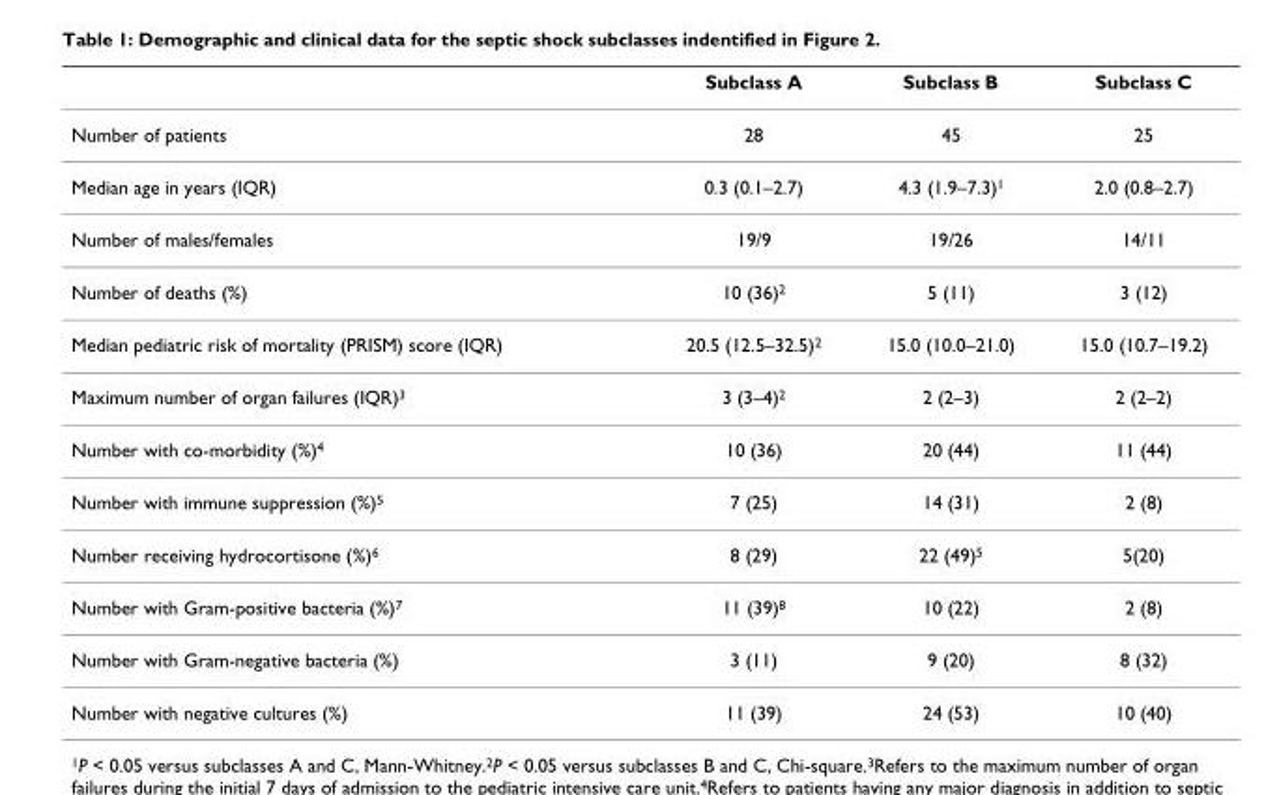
<table><thead><tr><td></td><td>Subclass A</td><td>Subclass B</td><td>Subclass C</td></tr></thead><tbody><tr><td>Number of patients</td><td>28</td><td>45</td><td>25</td></tr><tr><td>Median age in years (IQR)</td><td>0.3 (0.1–2.7)</td><td>4.3 (1.9–7.3)<sup>1</sup></td><td>2.0 (0.8–2.7)</td></tr><tr><td>Number of males/females</td><td>19/9</td><td>19/26</td><td>14/11</td></tr><tr><td>Number of deaths (%)</td><td>10 (36)<sup>2</sup></td><td>5 (11)</td><td>3 (12)</td></tr><tr><td>Median pediatric risk of mortality (PRISM) score (IQR)</td><td>20.5 (12.5–32.5)<sup>2</sup></td><td>15.0 (10.0–21.0)</td><td>15.0 (10.7–19.2)</td></tr><tr><td>Maximum number of organ failures (IQR)<sup>3</sup></td><td>3 (3–4)<sup>2</sup></td><td>2 (2–3)</td><td>2 (2–2)</td></tr><tr><td>Number with co-morbidity (%)<sup>4</sup></td><td>10 (36)</td><td>20 (44)</td><td>11 (44)</td></tr><tr><td>Number with immune suppression (%)<sup>5</sup></td><td>7 (25)</td><td>14 (31)</td><td>2 (8)</td></tr><tr><td>Number receiving hydrocortisone (%)<sup>6</sup></td><td>8 (29)</td><td>22 (49)<sup>5</sup></td><td>5(20)</td></tr><tr><td>Number with Gram-positive bacteria (%)<sup>7</sup></td><td>11 (39)<sup>8</sup></td><td>10 (22)</td><td>2 (8)</td></tr><tr><td>Number with Gram-negative bacteria (%)</td><td>3 (11)</td><td>9 (20)</td><td>8 (32)</td></tr><tr><td>Number with negative cultures (%)</td><td>11 (39)</td><td>24 (53)</td><td>10 (40)</td></tr></tbody></table>